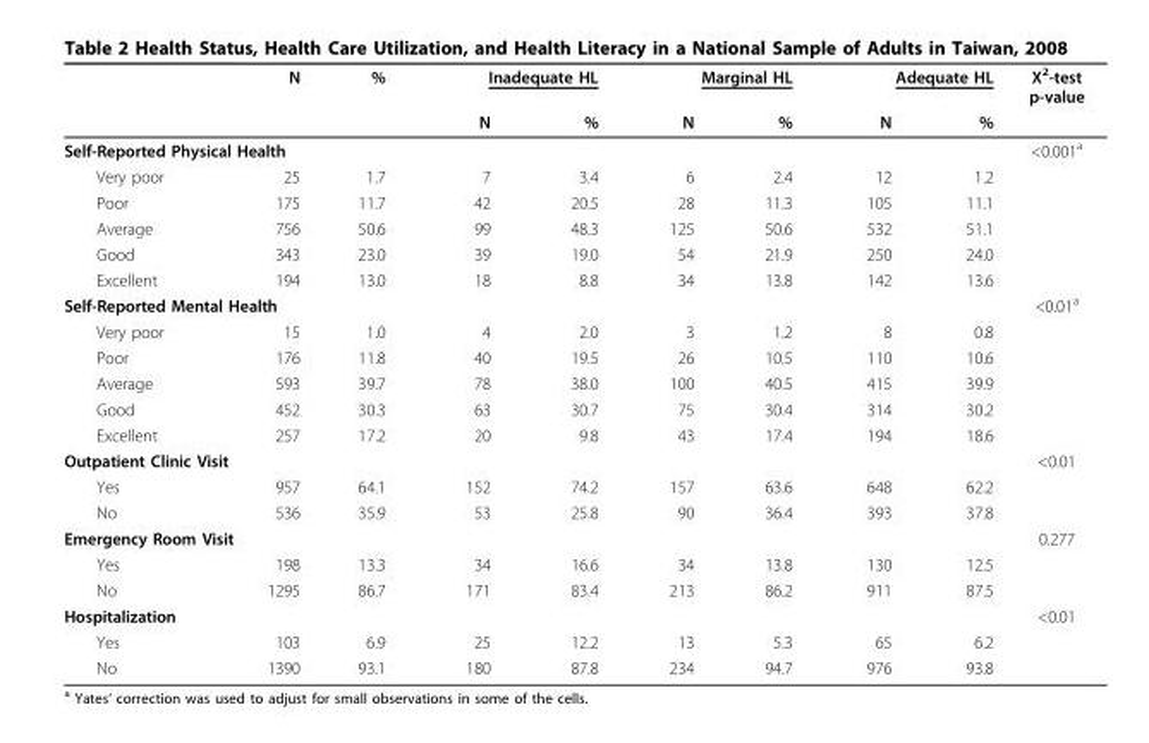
<table><thead><tr><td rowspan="2"></td><td rowspan="2">N</td><td rowspan="2">%</td><td colspan="2">Inadequate HL</td><td colspan="2">Marginal HL</td><td colspan="2">Adequate HL</td><td rowspan="2">X<sup>2</sup>-test p-value</td></tr><tr><td>N</td><td>%</td><td>N</td><td>%</td><td>N</td><td>%</td></tr></thead><tbody><tr><td colspan="9">Self-Reported Physical Health</td><td>&lt;0.001<sup>a</sup></td></tr><tr><td>Very poor</td><td>25</td><td>1.7</td><td>7</td><td>3.4</td><td>6</td><td>2.4</td><td>12</td><td>1.2</td><td></td></tr><tr><td>Poor</td><td>175</td><td>11.7</td><td>42</td><td>20.5</td><td>28</td><td>11.3</td><td>105</td><td>11.1</td><td></td></tr><tr><td>Average</td><td>756</td><td>50.6</td><td>99</td><td>48.3</td><td>125</td><td>50.6</td><td>532</td><td>51.1</td><td></td></tr><tr><td>Good</td><td>343</td><td>23.0</td><td>39</td><td>19.0</td><td>54</td><td>21.9</td><td>250</td><td>24.0</td><td></td></tr><tr><td>Excellent</td><td>194</td><td>13.0</td><td>18</td><td>8.8</td><td>34</td><td>13.8</td><td>142</td><td>13.6</td><td></td></tr><tr><td colspan="9">Self-Reported Mental Health</td><td>&lt;0.01<sup>a</sup></td></tr><tr><td>Very poor</td><td>15</td><td>1.0</td><td>4</td><td>2.0</td><td>3</td><td>1.2</td><td>8</td><td>0.8</td><td></td></tr><tr><td>Poor</td><td>176</td><td>11.8</td><td>40</td><td>19.5</td><td>26</td><td>10.5</td><td>110</td><td>10.6</td><td></td></tr><tr><td>Average</td><td>593</td><td>39.7</td><td>78</td><td>38.0</td><td>100</td><td>40.5</td><td>415</td><td>39.9</td><td></td></tr><tr><td>Good</td><td>452</td><td>30.3</td><td>63</td><td>30.7</td><td>75</td><td>30.4</td><td>314</td><td>30.2</td><td></td></tr><tr><td>Excellent</td><td>257</td><td>17.2</td><td>20</td><td>9.8</td><td>43</td><td>17.4</td><td>194</td><td>18.6</td><td></td></tr><tr><td colspan="9">Outpatient Clinic Visit</td><td>&lt;0.01</td></tr><tr><td>Yes</td><td>957</td><td>64.1</td><td>152</td><td>74.2</td><td>157</td><td>63.6</td><td>648</td><td>62.2</td><td></td></tr><tr><td>No</td><td>536</td><td>35.9</td><td>53</td><td>25.8</td><td>90</td><td>36.4</td><td>393</td><td>37.8</td><td></td></tr><tr><td colspan="9">Emergency Room Visit</td><td>0.277</td></tr><tr><td>Yes</td><td>198</td><td>13.3</td><td>34</td><td>16.6</td><td>34</td><td>13.8</td><td>130</td><td>12.5</td><td></td></tr><tr><td>No</td><td>1295</td><td>86.7</td><td>171</td><td>83.4</td><td>213</td><td>86.2</td><td>911</td><td>87.5</td><td></td></tr><tr><td colspan="9">Hospitalization</td><td>&lt;0.01</td></tr><tr><td>Yes</td><td>103</td><td>6.9</td><td>25</td><td>12.2</td><td>13</td><td>5.3</td><td>65</td><td>6.2</td><td></td></tr><tr><td>No</td><td>1390</td><td>93.1</td><td>180</td><td>87.8</td><td>234</td><td>94.7</td><td>976</td><td>93.8</td><td></td></tr></tbody></table>